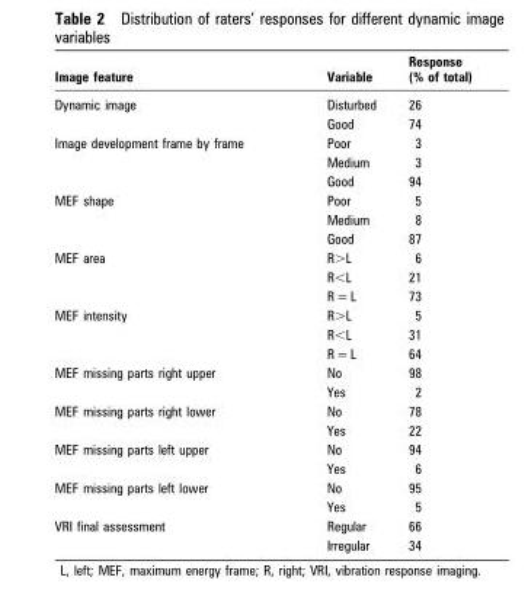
<table><thead><tr><td>Image feature</td><td>Variable</td><td>Response (% of total)</td></tr></thead><tbody><tr><td rowspan="2">Dynamic image</td><td>Disturbed</td><td>26</td></tr><tr><td>Good</td><td>74</td></tr><tr><td rowspan="3">Image development frame by frame</td><td>Poor</td><td>3</td></tr><tr><td>Medium</td><td>3</td></tr><tr><td>Good</td><td>94</td></tr><tr><td rowspan="3">MEF shape</td><td>Poor</td><td>5</td></tr><tr><td>Medium</td><td>8</td></tr><tr><td>Good</td><td>87</td></tr><tr><td rowspan="3">MEF area</td><td>R&gt;L</td><td>6</td></tr><tr><td>R&lt;L</td><td>21</td></tr><tr><td>R = L</td><td>73</td></tr><tr><td rowspan="3">MEF intensity</td><td>R&gt;L</td><td>5</td></tr><tr><td>R&lt;L</td><td>31</td></tr><tr><td>R = L</td><td>64</td></tr><tr><td rowspan="2">MEF missing parts right upper</td><td>No</td><td>98</td></tr><tr><td>Yes</td><td>2</td></tr><tr><td rowspan="2">MEF missing parts right lower</td><td>No</td><td>78</td></tr><tr><td>Yes</td><td>22</td></tr><tr><td rowspan="2">MEF missing parts left upper</td><td>No</td><td>94</td></tr><tr><td>Yes</td><td>6</td></tr><tr><td rowspan="2">MEF missing parts left lower</td><td>No</td><td>95</td></tr><tr><td>Yes</td><td>5</td></tr><tr><td rowspan="2">VRI final assessment</td><td>Regular</td><td>66</td></tr><tr><td>Irregular</td><td>34</td></tr></tbody></table>